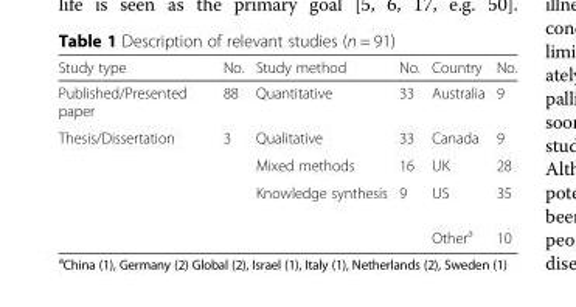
<table><thead><tr><td>Study type</td><td>No.</td><td>Study method</td><td>No.</td><td>Country</td><td>No.</td></tr></thead><tbody><tr><td>Published/Presented paper</td><td>88</td><td>Quantitative</td><td>33</td><td>Australia</td><td>9</td></tr><tr><td rowspan="4">Thesis/Dissertation</td><td>3</td><td>Qualitative</td><td>33</td><td>Canada</td><td>9</td></tr><tr><td></td><td>Mixed methods</td><td>16</td><td>UK</td><td>28</td></tr><tr><td></td><td>Knowledge synthesis</td><td>9</td><td>US</td><td>35</td></tr><tr><td></td><td></td><td></td><td>Other<sup>a</sup></td><td>10</td></tr></tbody></table>